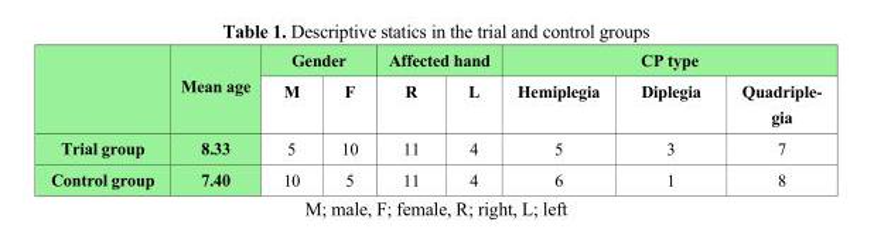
<table><thead><tr><td rowspan="2"></td><td rowspan="2">Mean age</td><td colspan="2">Gender</td><td colspan="2">Affected hand</td><td colspan="3">CP type</td></tr><tr><td>M</td><td>F</td><td>R</td><td>L</td><td>Hemiplegia</td><td>Diplegia</td><td>Quadriple- gia</td></tr></thead><tbody><tr><td>Trial group</td><td>8.33</td><td>5</td><td>10</td><td>11</td><td>4</td><td>5</td><td>3</td><td>7</td></tr><tr><td>Control group</td><td>7.40</td><td>10</td><td>5</td><td>11</td><td>4</td><td>6</td><td>1</td><td>8</td></tr></tbody></table>